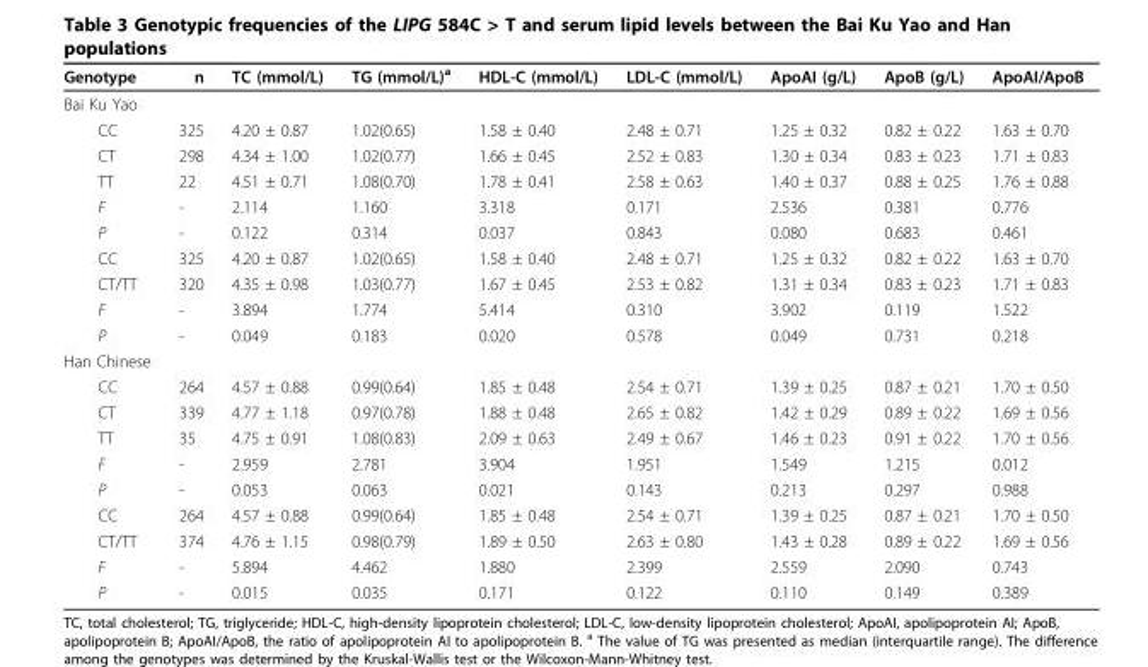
<table><thead><tr><td>Genotype</td><td>n</td><td>TC (mmol/L)</td><td>TG (mmol/L)<sup>a</sup></td><td>HDL-C (mmol/L)</td><td>LDL-C (mmol/L)</td><td>ApoAI (g/L)</td><td>ApoB (g/L)</td><td>ApoAI/ApoB</td></tr></thead><tbody><tr><td colspan="9">Bai Ku Yao</td></tr><tr><td>CC</td><td>325</td><td>4.20 ± 0.87</td><td>1.02(0.65)</td><td>1.58 ± 0.40</td><td>2.48 ± 0.71</td><td>1.25 ± 0.32</td><td>0.82 ± 0.22</td><td>1.63 ± 0.70</td></tr><tr><td>CT</td><td>298</td><td>4.34 ± 1.00</td><td>1.02(0.77)</td><td>1.66 ± 0.45</td><td>2.52 ± 0.83</td><td>1.30 ± 0.34</td><td>0.83 ± 0.23</td><td>1.71 ± 0.83</td></tr><tr><td>TT</td><td>22</td><td>4.51 ± 0.71</td><td>1.08(0.70)</td><td>1.78 ± 0.41</td><td>2.58 ± 0.63</td><td>1.40 ± 0.37</td><td>0.88 ± 0.25</td><td>1.76 ± 0.88</td></tr><tr><td>F</td><td>-</td><td>2.114</td><td>1.160</td><td>3.318</td><td>0.171</td><td>2.536</td><td>0.381</td><td>0.776</td></tr><tr><td>P</td><td>-</td><td>0.122</td><td>0.314</td><td>0.037</td><td>0.843</td><td>0.080</td><td>0.683</td><td>0.461</td></tr><tr><td>CC</td><td>325</td><td>4.20 ± 0.87</td><td>1.02(0.65)</td><td>1.58 ± 0.40</td><td>2.48 ± 0.71</td><td>1.25 ± 0.32</td><td>0.82 ± 0.22</td><td>1.63 ± 0.70</td></tr><tr><td>CT/TT</td><td>320</td><td>4.35 ± 0.98</td><td>1.03(0.77)</td><td>1.67 ± 0.45</td><td>2.53 ± 0.82</td><td>1.31 ± 0.34</td><td>0.83 ± 0.23</td><td>1.71 ± 0.83</td></tr><tr><td>F</td><td>-</td><td>3.894</td><td>1.774</td><td>5.414</td><td>0.310</td><td>3.902</td><td>0.119</td><td>1.522</td></tr><tr><td>P</td><td>-</td><td>0.049</td><td>0.183</td><td>0.020</td><td>0.578</td><td>0.049</td><td>0.731</td><td>0.218</td></tr><tr><td colspan="9">Han Chinese</td></tr><tr><td>CC</td><td>264</td><td>4.57 ± 0.88</td><td>0.99(0.64)</td><td>1.85 ± 0.48</td><td>2.54 ± 0.71</td><td>1.39 ± 0.25</td><td>0.87 ± 0.21</td><td>1.70 ± 0.50</td></tr><tr><td>CT</td><td>339</td><td>4.77 ± 1.18</td><td>0.97(0.78)</td><td>1.88 ± 0.48</td><td>2.65 ± 0.82</td><td>1.42 ± 0.29</td><td>0.89 ± 0.22</td><td>1.69 ± 0.56</td></tr><tr><td>TT</td><td>35</td><td>4.75 ± 0.91</td><td>1.08(0.83)</td><td>2.09 ± 0.63</td><td>2.49 ± 0.67</td><td>1.46 ± 0.23</td><td>0.91 ± 0.22</td><td>1.70 ± 0.56</td></tr><tr><td>F</td><td>-</td><td>2.959</td><td>2.781</td><td>3.904</td><td>1.951</td><td>1.549</td><td>1.215</td><td>0.012</td></tr><tr><td>P</td><td>-</td><td>0.053</td><td>0.063</td><td>0.021</td><td>0.143</td><td>0.213</td><td>0.297</td><td>0.988</td></tr><tr><td>CC</td><td>264</td><td>4.57 ± 0.88</td><td>0.99(0.64)</td><td>1.85 ± 0.48</td><td>2.54 ± 0.71</td><td>1.39 ± 0.25</td><td>0.87 ± 0.21</td><td>1.70 ± 0.50</td></tr><tr><td>CT/TT</td><td>374</td><td>4.76 ± 1.15</td><td>0.98(0.79)</td><td>1.89 ± 0.50</td><td>2.63 ± 0.80</td><td>1.43 ± 0.28</td><td>0.89 ± 0.22</td><td>1.69 ± 0.56</td></tr><tr><td>F</td><td>-</td><td>5.894</td><td>4.462</td><td>1.880</td><td>2.399</td><td>2.559</td><td>2.090</td><td>0.743</td></tr><tr><td>P</td><td>-</td><td>0.015</td><td>0.035</td><td>0.171</td><td>0.122</td><td>0.110</td><td>0.149</td><td>0.389</td></tr></tbody></table>